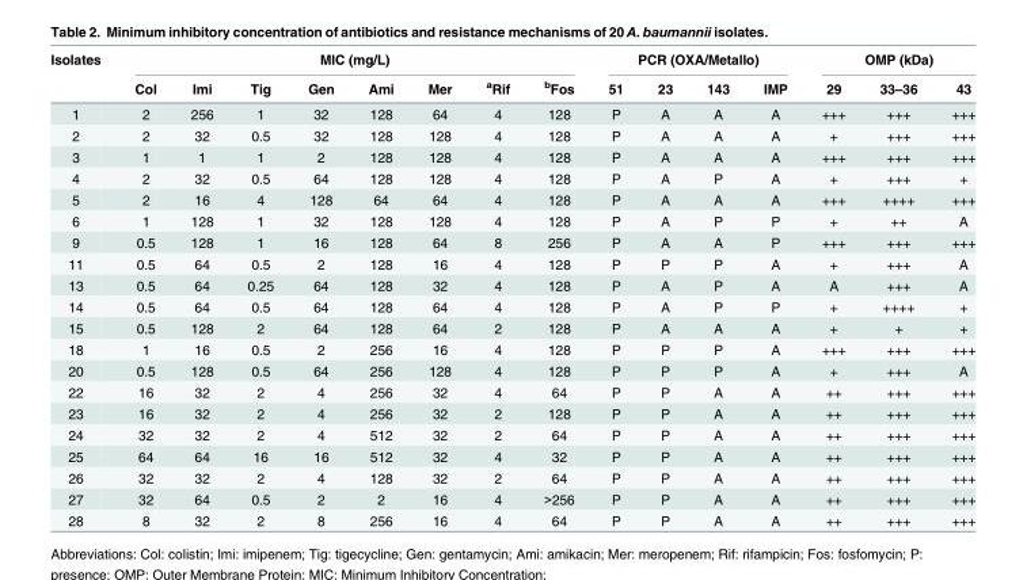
<table><thead><tr><td rowspan="2">Isolates</td><td colspan="8">MIC (mg/L)</td><td colspan="4">PCR (OXA/Metallo)</td><td colspan="3">OMP (kDa)</td></tr><tr><td>Col</td><td>Imi</td><td>Tig</td><td>Gen</td><td>Ami</td><td>Mer</td><td><sup>a</sup>Rif</td><td><sup>b</sup>Fos</td><td>51</td><td>23</td><td>143</td><td>IMP</td><td>29</td><td>33–36</td><td>43</td></tr></thead><tbody><tr><td>1</td><td>2</td><td>256</td><td>1</td><td>32</td><td>128</td><td>64</td><td>4</td><td>128</td><td>P</td><td>A</td><td>A</td><td>A</td><td>+++</td><td>+++</td><td>+++</td></tr><tr><td>2</td><td>2</td><td>32</td><td>0.5</td><td>32</td><td>128</td><td>128</td><td>4</td><td>128</td><td>P</td><td>A</td><td>A</td><td>A</td><td>+</td><td>+++</td><td>+++</td></tr><tr><td>3</td><td>1</td><td>1</td><td>1</td><td>2</td><td>128</td><td>128</td><td>4</td><td>128</td><td>P</td><td>A</td><td>A</td><td>A</td><td>+++</td><td>+++</td><td>+++</td></tr><tr><td>4</td><td>2</td><td>32</td><td>0.5</td><td>64</td><td>128</td><td>128</td><td>4</td><td>128</td><td>P</td><td>A</td><td>P</td><td>A</td><td>+</td><td>+++</td><td>+</td></tr><tr><td>5</td><td>2</td><td>16</td><td>4</td><td>128</td><td>64</td><td>64</td><td>4</td><td>128</td><td>P</td><td>A</td><td>A</td><td>A</td><td>+++</td><td>++++</td><td>+++</td></tr><tr><td>6</td><td>1</td><td>128</td><td>1</td><td>32</td><td>128</td><td>128</td><td>4</td><td>128</td><td>P</td><td>A</td><td>P</td><td>P</td><td>+</td><td>++</td><td>A</td></tr><tr><td>9</td><td>0.5</td><td>128</td><td>1</td><td>16</td><td>128</td><td>64</td><td>8</td><td>256</td><td>P</td><td>A</td><td>A</td><td>P</td><td>+++</td><td>+++</td><td>+++</td></tr><tr><td>11</td><td>0.5</td><td>64</td><td>0.5</td><td>2</td><td>128</td><td>16</td><td>4</td><td>128</td><td>P</td><td>P</td><td>P</td><td>A</td><td>+</td><td>+++</td><td>A</td></tr><tr><td>13</td><td>0.5</td><td>64</td><td>0.25</td><td>64</td><td>128</td><td>32</td><td>4</td><td>128</td><td>P</td><td>A</td><td>P</td><td>A</td><td>A</td><td>+++</td><td>A</td></tr><tr><td>14</td><td>0.5</td><td>64</td><td>0.5</td><td>64</td><td>128</td><td>64</td><td>4</td><td>128</td><td>P</td><td>A</td><td>P</td><td>P</td><td>+</td><td>++++</td><td>+</td></tr><tr><td>15</td><td>0.5</td><td>128</td><td>2</td><td>64</td><td>128</td><td>64</td><td>2</td><td>128</td><td>P</td><td>A</td><td>A</td><td>A</td><td>+</td><td>+</td><td>+</td></tr><tr><td>18</td><td>1</td><td>16</td><td>0.5</td><td>2</td><td>256</td><td>16</td><td>4</td><td>128</td><td>P</td><td>P</td><td>P</td><td>A</td><td>+++</td><td>+++</td><td>+++</td></tr><tr><td>20</td><td>0.5</td><td>128</td><td>0.5</td><td>64</td><td>256</td><td>128</td><td>4</td><td>128</td><td>P</td><td>P</td><td>P</td><td>A</td><td>+</td><td>+++</td><td>A</td></tr><tr><td>22</td><td>16</td><td>32</td><td>2</td><td>4</td><td>256</td><td>32</td><td>4</td><td>64</td><td>P</td><td>P</td><td>A</td><td>A</td><td>++</td><td>+++</td><td>+++</td></tr><tr><td>23</td><td>16</td><td>32</td><td>2</td><td>4</td><td>256</td><td>32</td><td>2</td><td>128</td><td>P</td><td>P</td><td>A</td><td>A</td><td>++</td><td>+++</td><td>+++</td></tr><tr><td>24</td><td>32</td><td>32</td><td>2</td><td>4</td><td>512</td><td>32</td><td>2</td><td>64</td><td>P</td><td>P</td><td>A</td><td>A</td><td>++</td><td>+++</td><td>+++</td></tr><tr><td>25</td><td>64</td><td>64</td><td>16</td><td>16</td><td>512</td><td>32</td><td>4</td><td>32</td><td>P</td><td>P</td><td>A</td><td>A</td><td>++</td><td>+++</td><td>+++</td></tr><tr><td>26</td><td>32</td><td>32</td><td>2</td><td>4</td><td>128</td><td>32</td><td>2</td><td>64</td><td>P</td><td>P</td><td>A</td><td>A</td><td>++</td><td>+++</td><td>+++</td></tr><tr><td>27</td><td>32</td><td>64</td><td>0.5</td><td>2</td><td>2</td><td>16</td><td>4</td><td>&gt;256</td><td>P</td><td>P</td><td>A</td><td>A</td><td>++</td><td>+++</td><td>+++</td></tr><tr><td>28</td><td>8</td><td>32</td><td>2</td><td>8</td><td>256</td><td>16</td><td>4</td><td>64</td><td>P</td><td>P</td><td>A</td><td>A</td><td>++</td><td>+++</td><td>+++</td></tr></tbody></table>